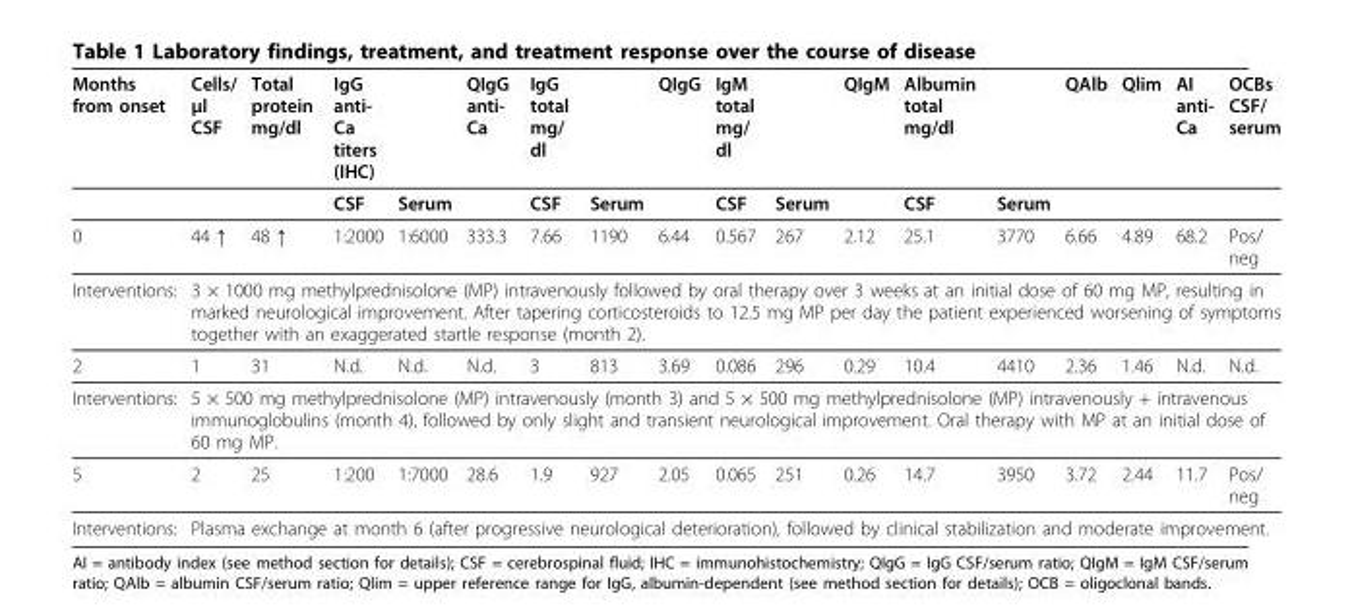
<table><thead><tr><td>Months from onset</td><td>Cells/ μl CSF</td><td>Total protein mg/dl</td><td>IgG anti- Ca titers (IHC)</td><td></td><td>QIgG anti- Ca</td><td>IgG total mg/ dl</td><td></td><td>QIgG</td><td>IgM total mg/ dl</td><td></td><td>QIgM</td><td>Albumin total mg/dl</td><td></td><td>QAlb</td><td>Qlim</td><td>AI anti- Ca</td><td>OCBs CSF/ serum</td></tr></thead><tbody><tr><td></td><td></td><td></td><td>CSF</td><td>Serum</td><td></td><td>CSF</td><td>Serum</td><td></td><td>CSF</td><td>Serum</td><td></td><td>CSF</td><td>Serum</td><td></td><td></td><td></td><td></td></tr><tr><td>0</td><td>44 ↑</td><td>48 ↑</td><td>1:2000</td><td>1:6000</td><td>333.3</td><td>7.66</td><td>1190</td><td>6.44</td><td>0.567</td><td>267</td><td>2.12</td><td>25.1</td><td>3770</td><td>6.66</td><td>4.89</td><td>68.2</td><td>Pos/ neg</td></tr><tr><td>Interventions:</td><td colspan="17">3 × 1000 mg methylprednisolone (MP) intravenously followed by oral therapy over 3 weeks at an initial dose of 60 mg MP, resulting in marked neurological improvement. After tapering corticosteroids to 12.5 mg MP per day the patient experienced worsening of symptoms together with an exaggerated startle response (month 2).</td></tr><tr><td>2</td><td>1</td><td>31</td><td>N.d.</td><td>N.d.</td><td>N.d.</td><td>3</td><td>813</td><td>3.69</td><td>0.086</td><td>296</td><td>0.29</td><td>10.4</td><td>4410</td><td>2.36</td><td>1.46</td><td>N.d.</td><td>N.d.</td></tr><tr><td>Interventions:</td><td colspan="17">5 × 500 mg methylprednisolone (MP) intravenously (month 3) and 5 × 500 mg methylprednisolone (MP) intravenously + intravenous immunoglobulins (month 4), followed by only slight and transient neurological improvement. Oral therapy with MP at an initial dose of 60 mg MP.</td></tr><tr><td>5</td><td>2</td><td>25</td><td>1:200</td><td>1:7000</td><td>28.6</td><td>1.9</td><td>927</td><td>2.05</td><td>0.065</td><td>251</td><td>0.26</td><td>14.7</td><td>3950</td><td>3.72</td><td>2.44</td><td>11.7</td><td>Pos/ neg</td></tr><tr><td>Interventions:</td><td colspan="17">Plasma exchange at month 6 (after progressive neurological deterioration), followed by clinical stabilization and moderate improvement.</td></tr></tbody></table>